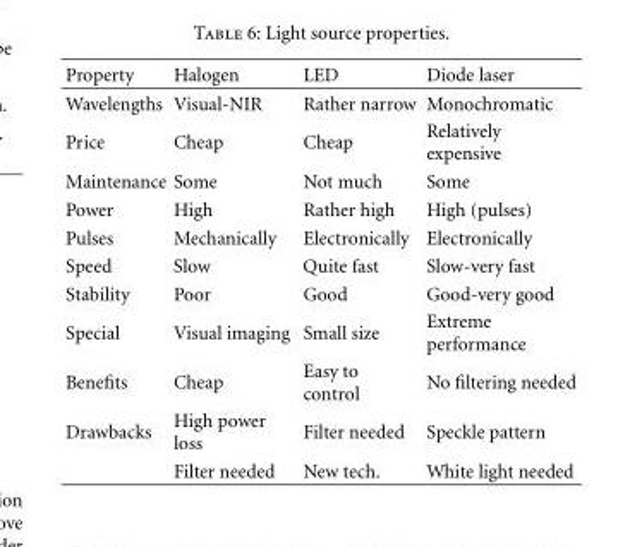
<table><thead><tr><td>Property</td><td>Halogen</td><td>LED</td><td>Diode laser</td></tr></thead><tbody><tr><td>Wavelengths</td><td>Visual-NIR</td><td>Rather narrow</td><td>Monochromatic</td></tr><tr><td>Price</td><td>Cheap</td><td>Cheap</td><td>Relatively expensive</td></tr><tr><td>Maintenance</td><td>Some</td><td>Not much</td><td>Some</td></tr><tr><td>Power</td><td>High</td><td>Rather high</td><td>High (pulses)</td></tr><tr><td>Pulses</td><td>Mechanically</td><td>Electronically</td><td>Electronically</td></tr><tr><td>Speed</td><td>Slow</td><td>Quite fast</td><td>Slow-very fast</td></tr><tr><td>Stability</td><td>Poor</td><td>Good</td><td>Good-very good</td></tr><tr><td>Special</td><td>Visual imaging</td><td>Small size</td><td>Extreme performance</td></tr><tr><td>Benefits</td><td>Cheap</td><td>Easy to control</td><td>No filtering needed</td></tr><tr><td rowspan="2">Drawbacks</td><td>High power loss</td><td>Filter needed</td><td>Speckle pattern</td></tr><tr><td>Filter needed</td><td>New tech.</td><td>White light needed</td></tr></tbody></table>